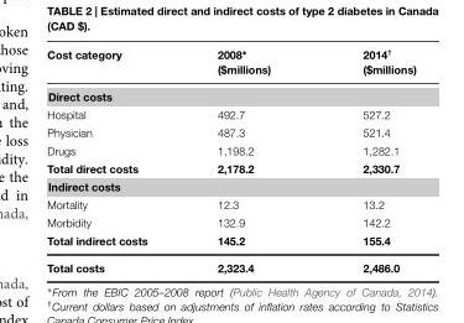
<table><thead><tr><td>Cost category</td><td>2008∗ ($millions)</td><td>2014<sup>†</sup> ($millions)</td></tr></thead><tbody><tr><td colspan="3">Direct costs</td></tr><tr><td>Hospital</td><td>492.7</td><td>527.2</td></tr><tr><td>Physician</td><td>487.3</td><td>521.4</td></tr><tr><td>Drugs</td><td>1,198.2</td><td>1,282.1</td></tr><tr><td>Total direct costs</td><td>2,178.2</td><td>2,330.7</td></tr><tr><td colspan="3">Indirect costs</td></tr><tr><td>Mortality</td><td>12.3</td><td>13.2</td></tr><tr><td>Morbidity</td><td>132.9</td><td>142.2</td></tr><tr><td>Total indirect costs</td><td>145.2</td><td>155.4</td></tr><tr><td>Total costs</td><td>2,323.4</td><td>2,486.0</td></tr></tbody></table>